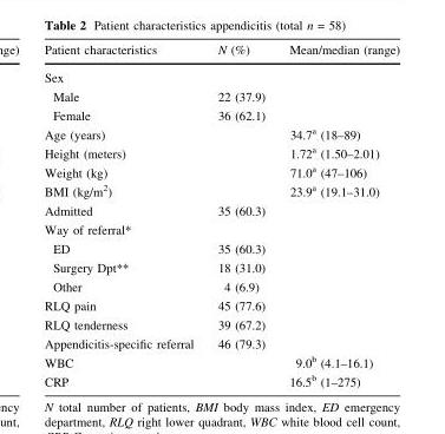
<table><thead><tr><td>Patient characteristics</td><td>N (%)</td><td>Mean/median (range)</td></tr></thead><tbody><tr><td colspan="3">Sex</td></tr><tr><td>Male</td><td>22 (37.9)</td><td></td></tr><tr><td>Female</td><td>36 (62.1)</td><td></td></tr><tr><td>Age (years)</td><td></td><td>34.7<sup>a</sup> (18–89)</td></tr><tr><td>Height (meters)</td><td></td><td>1.72<sup>a</sup> (1.50–2.01)</td></tr><tr><td>Weight (kg)</td><td></td><td>71.0<sup>a</sup> (47–106)</td></tr><tr><td>BMI (kg/m<sup>2</sup>)</td><td></td><td>23.9<sup>a</sup> (19.1–31.0)</td></tr><tr><td>Admitted</td><td>35 (60.3)</td><td></td></tr><tr><td colspan="3">Way of referral*</td></tr><tr><td>ED</td><td>35 (60.3)</td><td></td></tr><tr><td>Surgery Dpt**</td><td>18 (31.0)</td><td></td></tr><tr><td>Other</td><td>4 (6.9)</td><td></td></tr><tr><td>RLQ pain</td><td>45 (77.6)</td><td></td></tr><tr><td>RLQ tenderness</td><td>39 (67.2)</td><td></td></tr><tr><td>Appendicitis-specific referral</td><td>46 (79.3)</td><td></td></tr><tr><td>WBC</td><td></td><td>9.0<sup>b</sup> (4.1–16.1)</td></tr><tr><td>CRP</td><td></td><td>16.5<sup>b</sup> (1–275)</td></tr></tbody></table>